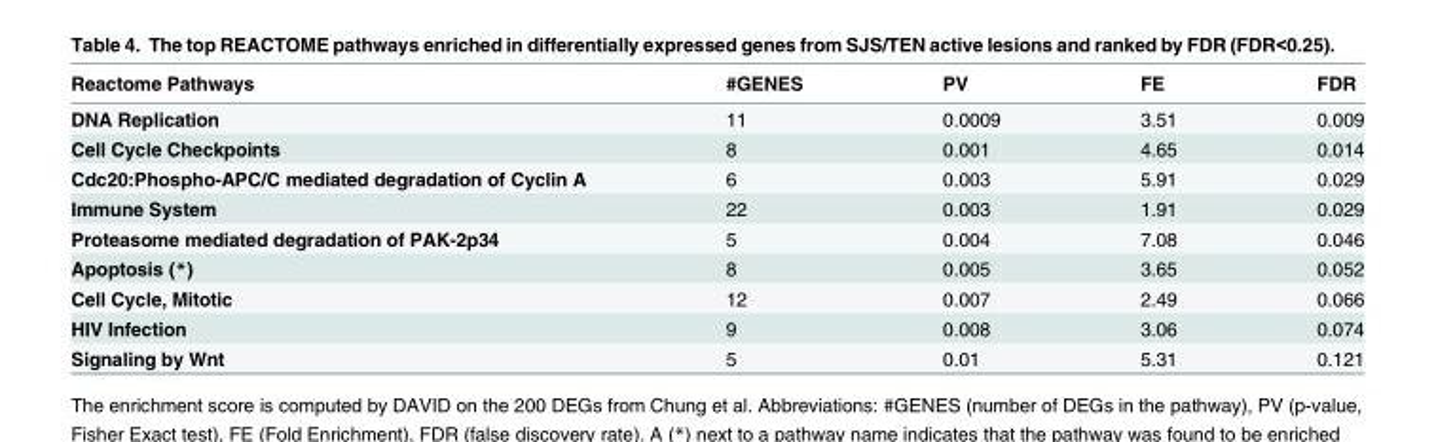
<table><thead><tr><td>Reactome Pathways</td><td>#GENES</td><td>PV</td><td>FE</td><td>FDR</td></tr></thead><tbody><tr><td>DNA Replication</td><td>11</td><td>0.0009</td><td>3.51</td><td>0.009</td></tr><tr><td>Cell Cycle Checkpoints</td><td>8</td><td>0.001</td><td>4.65</td><td>0.014</td></tr><tr><td>Cdc20:Phospho-APC/C mediated degradation of Cyclin A</td><td>6</td><td>0.003</td><td>5.91</td><td>0.029</td></tr><tr><td>Immune System</td><td>22</td><td>0.003</td><td>1.91</td><td>0.029</td></tr><tr><td>Proteasome mediated degradation of PAK-2p34</td><td>5</td><td>0.004</td><td>7.08</td><td>0.046</td></tr><tr><td>Apoptosis (*)</td><td>8</td><td>0.005</td><td>3.65</td><td>0.052</td></tr><tr><td>Cell Cycle, Mitotic</td><td>12</td><td>0.007</td><td>2.49</td><td>0.066</td></tr><tr><td>HIV Infection</td><td>9</td><td>0.008</td><td>3.06</td><td>0.074</td></tr><tr><td>Signaling by Wnt</td><td>5</td><td>0.01</td><td>5.31</td><td>0.121</td></tr></tbody></table>